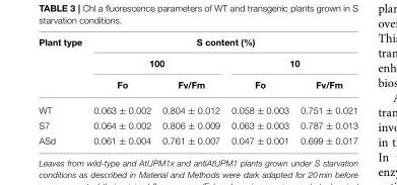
<table><thead><tr><td rowspan="3">Plant type</td><td colspan="4">S content (%)</td></tr><tr><td colspan="2">100</td><td colspan="2">10</td></tr><tr><td>Fo</td><td>Fv/Fm</td><td>Fo</td><td>Fv/Fm</td></tr></thead><tbody><tr><td>WT</td><td>0.063 ± 0.002</td><td>0.804 ± 0.012</td><td>0.058 ± 0.003</td><td>0.751 ± 0.021</td></tr><tr><td>S7</td><td>0.064 ± 0.002</td><td>0.806 ± 0.009</td><td>0.063 ± 0.003</td><td>0.787 ± 0.013</td></tr><tr><td>ASd</td><td>0.061 ± 0.004</td><td>0.761 ± 0.007</td><td>0.047 ± 0.001</td><td>0.699 ± 0.017</td></tr></tbody></table>